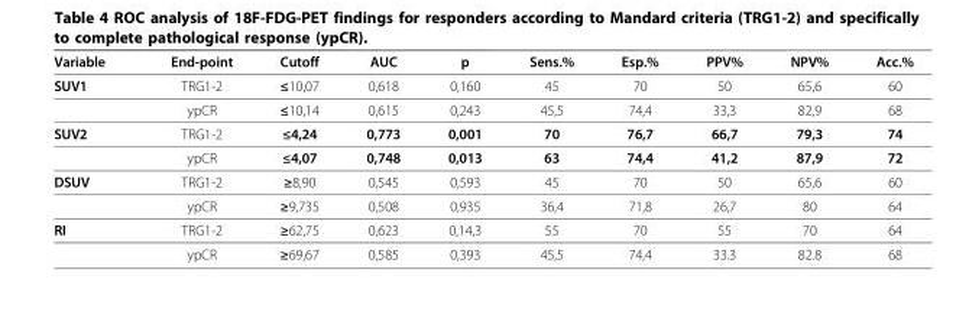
<table><thead><tr><td>Variable</td><td>End-point</td><td>Cutoff</td><td>AUC</td><td>p</td><td>Sens.%</td><td>Esp.%</td><td>PPV%</td><td>NPV%</td><td>Acc.%</td></tr></thead><tbody><tr><td rowspan="2">SUV1</td><td>TRG1-2</td><td>≤10,07</td><td>0,618</td><td>0,160</td><td>45</td><td>70</td><td>50</td><td>65,6</td><td>60</td></tr><tr><td>ypCR</td><td>≤10,14</td><td>0,615</td><td>0,243</td><td>45,5</td><td>74,4</td><td>33,3</td><td>82,9</td><td>68</td></tr><tr><td rowspan="2">SUV2</td><td>TRG1-2</td><td>≤4,24</td><td>0,773</td><td>0,001</td><td>70</td><td>76,7</td><td>66,7</td><td>79,3</td><td>74</td></tr><tr><td>ypCR</td><td>≤4,07</td><td>0,748</td><td>0,013</td><td>63</td><td>74,4</td><td>41,2</td><td>87,9</td><td>72</td></tr><tr><td rowspan="2">DSUV</td><td>TRG1-2</td><td>≥8,90</td><td>0,545</td><td>0,593</td><td>45</td><td>70</td><td>50</td><td>65,6</td><td>60</td></tr><tr><td>ypCR</td><td>≥9,735</td><td>0,508</td><td>0,935</td><td>36,4</td><td>71,8</td><td>26,7</td><td>80</td><td>64</td></tr><tr><td rowspan="2">RI</td><td>TRG1-2</td><td>≥62,75</td><td>0,623</td><td>0,14,3</td><td>55</td><td>70</td><td>55</td><td>70</td><td>64</td></tr><tr><td>ypCR</td><td>≥69,67</td><td>0,585</td><td>0,393</td><td>45,5</td><td>74,4</td><td>33.3</td><td>82.8</td><td>68</td></tr></tbody></table>